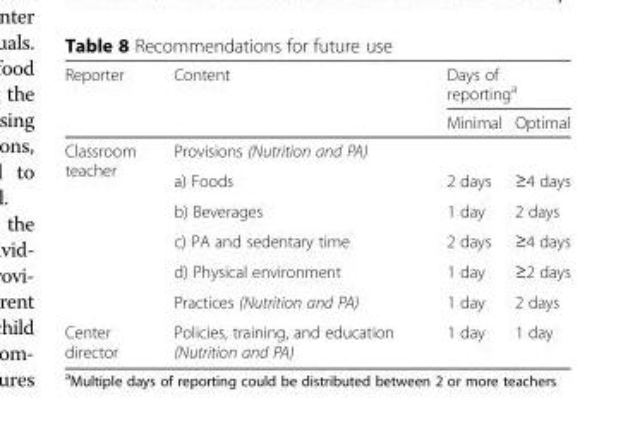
<table><thead><tr><td rowspan="2">Reporter</td><td rowspan="2">Content</td><td colspan="2">Days of reporting<sup>a</sup></td></tr><tr><td>Minimal</td><td>Optimal</td></tr></thead><tbody><tr><td rowspan="6">Classroom teacher</td><td>Provisions (Nutrition and PA)</td><td></td><td></td></tr><tr><td>a) Foods</td><td>2 days</td><td>≥4 days</td></tr><tr><td>b) Beverages</td><td>1 day</td><td>2 days</td></tr><tr><td>c) PA and sedentary time</td><td>2 days</td><td>≥4 days</td></tr><tr><td>d) Physical environment</td><td>1 day</td><td>≥2 days</td></tr><tr><td>Practices (Nutrition and PA)</td><td>1 day</td><td>2 days</td></tr><tr><td>Center director</td><td>Policies, training, and education (Nutrition and PA)</td><td>1 day</td><td>1 day</td></tr></tbody></table>